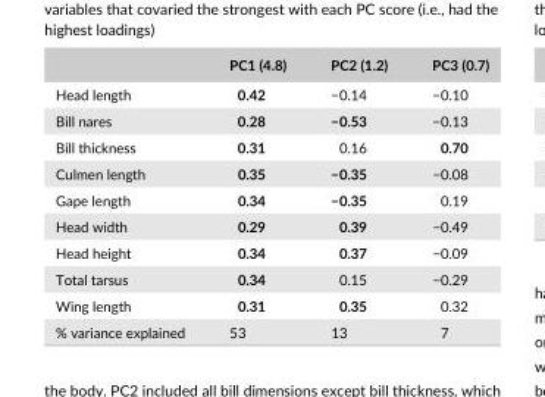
<table><thead><tr><td></td><td>PC1 (4.8)</td><td>PC2 (1.2)</td><td>PC3 (0.7)</td></tr></thead><tbody><tr><td>Head length</td><td>0.42</td><td>−0.14</td><td>−0.10</td></tr><tr><td>Bill nares</td><td>0.28</td><td>−0.53</td><td>−0.13</td></tr><tr><td>Bill thickness</td><td>0.31</td><td>0.16</td><td>0.70</td></tr><tr><td>Culmen length</td><td>0.35</td><td>−0.35</td><td>−0.08</td></tr><tr><td>Gape length</td><td>0.34</td><td>−0.35</td><td>0.19</td></tr><tr><td>Head width</td><td>0.29</td><td>0.39</td><td>−0.49</td></tr><tr><td>Head height</td><td>0.34</td><td>0.37</td><td>−0.09</td></tr><tr><td>Total tarsus</td><td>0.34</td><td>0.15</td><td>−0.29</td></tr><tr><td>Wing length</td><td>0.31</td><td>0.35</td><td>0.32</td></tr><tr><td>% variance explained</td><td>53</td><td>13</td><td>7</td></tr></tbody></table>